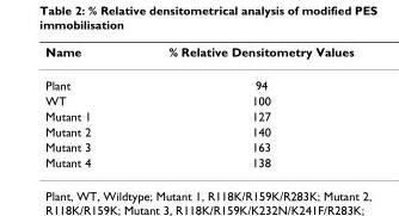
<table><thead><tr><td>Name</td><td>% Relative Densitometry Values</td></tr></thead><tbody><tr><td>Plant</td><td>94</td></tr><tr><td>WT</td><td>100</td></tr><tr><td>Mutant 1</td><td>127</td></tr><tr><td>Mutant 2</td><td>140</td></tr><tr><td>Mutant 3</td><td>163</td></tr><tr><td>Mutant 4</td><td>138</td></tr></tbody></table>